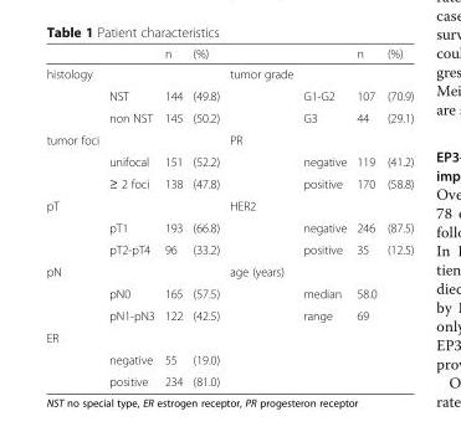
<table><thead><tr><td></td><td></td><td>n</td><td>(%)</td><td></td><td></td><td>n</td><td>(%)</td></tr></thead><tbody><tr><td rowspan="3">histology</td><td></td><td></td><td></td><td>tumor grade</td><td></td><td></td><td></td></tr><tr><td>NST</td><td>144</td><td>(49.8)</td><td></td><td>G1-G2</td><td>107</td><td>(70.9)</td></tr><tr><td>non NST</td><td>145</td><td>(50.2)</td><td></td><td>G3</td><td>44</td><td>(29.1)</td></tr><tr><td rowspan="3">tumor foci</td><td></td><td></td><td></td><td>PR</td><td></td><td></td><td></td></tr><tr><td>unifocal</td><td>151</td><td>(52.2)</td><td></td><td>negative</td><td>119</td><td>(41.2)</td></tr><tr><td>≥ 2 foci</td><td>138</td><td>(47.8)</td><td></td><td>positive</td><td>170</td><td>(58.8)</td></tr><tr><td rowspan="3">pT</td><td></td><td></td><td></td><td>HER2</td><td></td><td></td><td></td></tr><tr><td>pT1</td><td>193</td><td>(66.8)</td><td></td><td>negative</td><td>246</td><td>(87.5)</td></tr><tr><td>pT2-pT4</td><td>96</td><td>(33.2)</td><td></td><td>positive</td><td>35</td><td>(12.5)</td></tr><tr><td rowspan="3">pN</td><td></td><td></td><td></td><td>age (years)</td><td></td><td></td><td></td></tr><tr><td>pN0</td><td>165</td><td>(57.5)</td><td></td><td>median</td><td>58.0</td><td></td></tr><tr><td>pN1-pN3</td><td>122</td><td>(42.5)</td><td></td><td>range</td><td>69</td><td></td></tr><tr><td colspan="8">ER</td></tr><tr><td></td><td>negative</td><td>55</td><td>(19.0)</td><td></td><td></td><td></td><td></td></tr><tr><td></td><td>positive</td><td>234</td><td>(81.0)</td><td></td><td></td><td></td><td></td></tr></tbody></table>